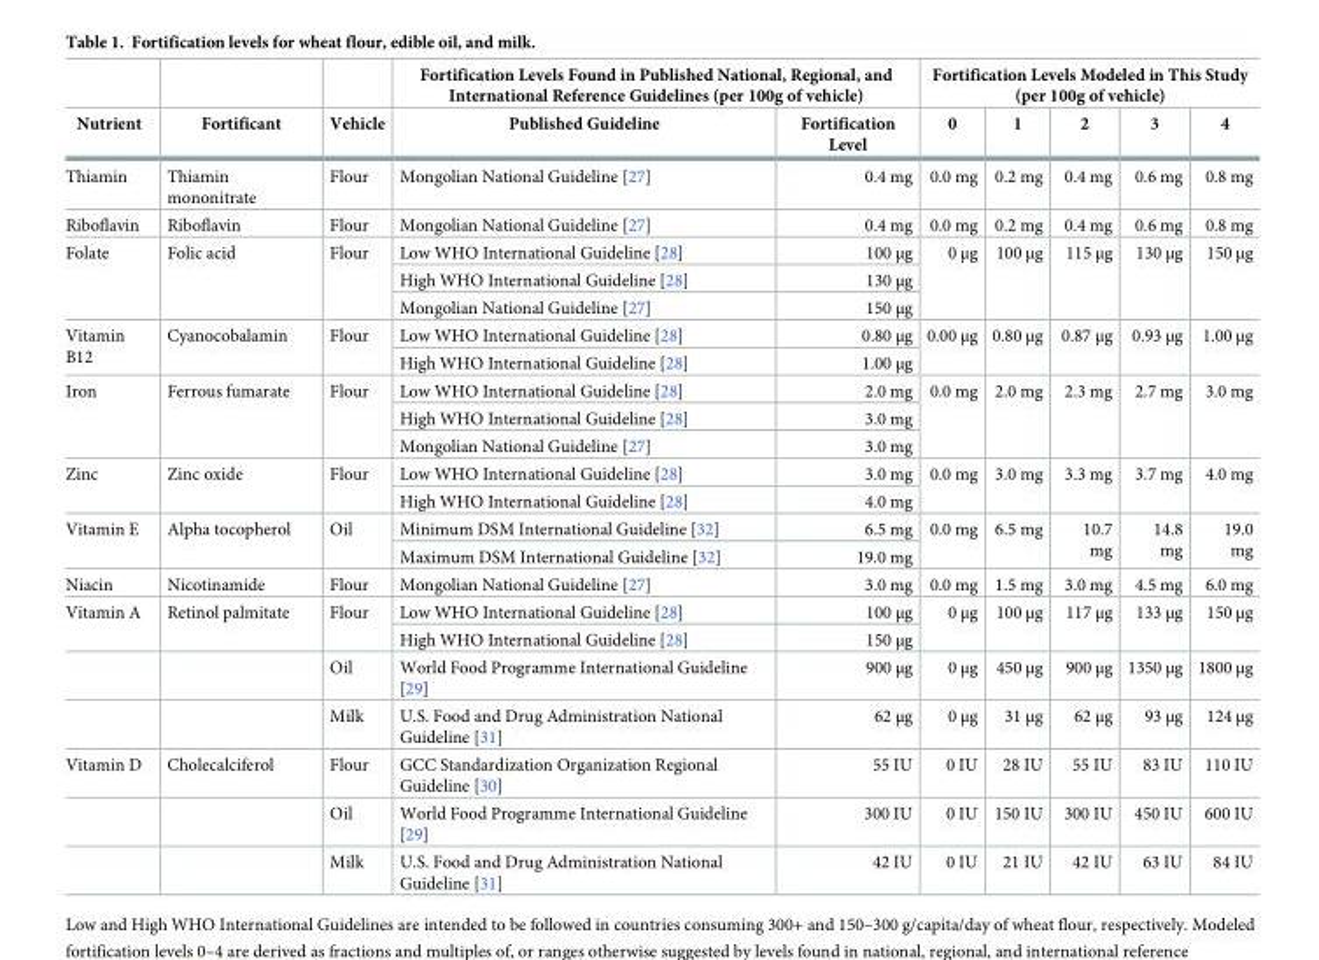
<table><thead><tr><td rowspan="2">Nutrient</td><td rowspan="2">Fortificant</td><td rowspan="2">Vehicle</td><td colspan="2">Fortification Levels Found in Published National, Regional, and International Reference Guidelines (per 100g of vehicle)</td><td colspan="5">Fortification Levels Modeled in This Study (per 100g of vehicle)</td></tr><tr><td>Published Guideline</td><td>Fortification Level</td><td>0</td><td>1</td><td>2</td><td>3</td><td>4</td></tr></thead><tbody><tr><td>Thiamin</td><td>Thiamin mononitrate</td><td>Flour</td><td>Mongolian National Guideline [27]</td><td>0.4 mg</td><td>0.0 mg</td><td>0.2 mg</td><td>0.4 mg</td><td>0.6 mg</td><td>0.8 mg</td></tr><tr><td>Riboflavin</td><td>Riboflavin</td><td>Flour</td><td>Mongolian National Guideline [27]</td><td>0.4 mg</td><td>0.0 mg</td><td>0.2 mg</td><td>0.4 mg</td><td>0.6 mg</td><td>0.8 mg</td></tr><tr><td rowspan="3">Folate</td><td rowspan="3">Folic acid</td><td rowspan="3">Flour</td><td>Low WHO International Guideline [28]</td><td>100 μg</td><td rowspan="3">0 μg</td><td rowspan="3">100 μg</td><td rowspan="3">115 μg</td><td rowspan="3">130 μg</td><td rowspan="3">150 μg</td></tr><tr><td>High WHO International Guideline [28]</td><td>130 μg</td></tr><tr><td>Mongolian National Guideline [27]</td><td>150 μg</td></tr><tr><td rowspan="2">Vitamin B12</td><td rowspan="2">Cyanocobalamin</td><td rowspan="2">Flour</td><td>Low WHO International Guideline [28]</td><td>0.80 μg</td><td rowspan="2">0.00 μg</td><td rowspan="2">0.80 μg</td><td rowspan="2">0.87 μg</td><td rowspan="2">0.93 μg</td><td rowspan="2">1.00 μg</td></tr><tr><td>High WHO International Guideline [28]</td><td>1.00 μg</td></tr><tr><td rowspan="3">Iron</td><td rowspan="3">Ferrous fumarate</td><td rowspan="3">Flour</td><td>Low WHO International Guideline [28]</td><td>2.0 mg</td><td rowspan="3">0.0 mg</td><td rowspan="3">2.0 mg</td><td rowspan="3">2.3 mg</td><td rowspan="3">2.7 mg</td><td rowspan="3">3.0 mg</td></tr><tr><td>High WHO International Guideline [28]</td><td>3.0 mg</td></tr><tr><td>Mongolian National Guideline [27]</td><td>3.0 mg</td></tr><tr><td rowspan="2">Zinc</td><td rowspan="2">Zinc oxide</td><td rowspan="2">Flour</td><td>Low WHO International Guideline [28]</td><td>3.0 mg</td><td rowspan="2">0.0 mg</td><td rowspan="2">3.0 mg</td><td rowspan="2">3.3 mg</td><td rowspan="2">3.7 mg</td><td rowspan="2">4.0 mg</td></tr><tr><td>High WHO International Guideline [28]</td><td>4.0 mg</td></tr><tr><td rowspan="2">Vitamin E</td><td rowspan="2">Alpha tocopherol</td><td rowspan="2">Oil</td><td>Minimum DSM International Guideline [32]</td><td>6.5 mg</td><td rowspan="2">0.0 mg</td><td rowspan="2">6.5 mg</td><td rowspan="2">10.7 mg</td><td rowspan="2">14.8 mg</td><td rowspan="2">19.0 mg</td></tr><tr><td>Maximum DSM International Guideline [32]</td><td>19.0 mg</td></tr><tr><td>Niacin</td><td>Nicotinamide</td><td>Flour</td><td>Mongolian National Guideline [27]</td><td>3.0 mg</td><td>0.0 mg</td><td>1.5 mg</td><td>3.0 mg</td><td>4.5 mg</td><td>6.0 mg</td></tr><tr><td rowspan="4">Vitamin A</td><td rowspan="2">Retinol palmitate</td><td rowspan="2">Flour</td><td>Low WHO International Guideline [28]</td><td>100 μg</td><td rowspan="2">0 μg</td><td rowspan="2">100 μg</td><td rowspan="2">117 μg</td><td rowspan="2">133 μg</td><td rowspan="2">150 μg</td></tr><tr><td>High WHO International Guideline [28]</td><td>150 μg</td></tr><tr><td></td><td>Oil</td><td>World Food Programme International Guideline [29]</td><td>900 μg</td><td>0 μg</td><td>450 μg</td><td>900 μg</td><td>1350 μg</td><td>1800 μg</td></tr><tr><td></td><td>Milk</td><td>U.S. Food and Drug Administration National Guideline [31]</td><td>62 μg</td><td>0 μg</td><td>31 μg</td><td>62 μg</td><td>93 μg</td><td>124 μg</td></tr><tr><td rowspan="3">Vitamin D</td><td>Cholecalciferol</td><td>Flour</td><td>GCC Standardization Organization Regional Guideline [30]</td><td>55 IU</td><td>0 IU</td><td>28 IU</td><td>55 IU</td><td>83 IU</td><td>110 IU</td></tr><tr><td></td><td>Oil</td><td>World Food Programme International Guideline [29]</td><td>300 IU</td><td>0 IU</td><td>150 IU</td><td>300 IU</td><td>450 IU</td><td>600 IU</td></tr><tr><td></td><td>Milk</td><td>U.S. Food and Drug Administration National Guideline [31]</td><td>42 IU</td><td>0 IU</td><td>21 IU</td><td>42 IU</td><td>63 IU</td><td>84 IU</td></tr></tbody></table>